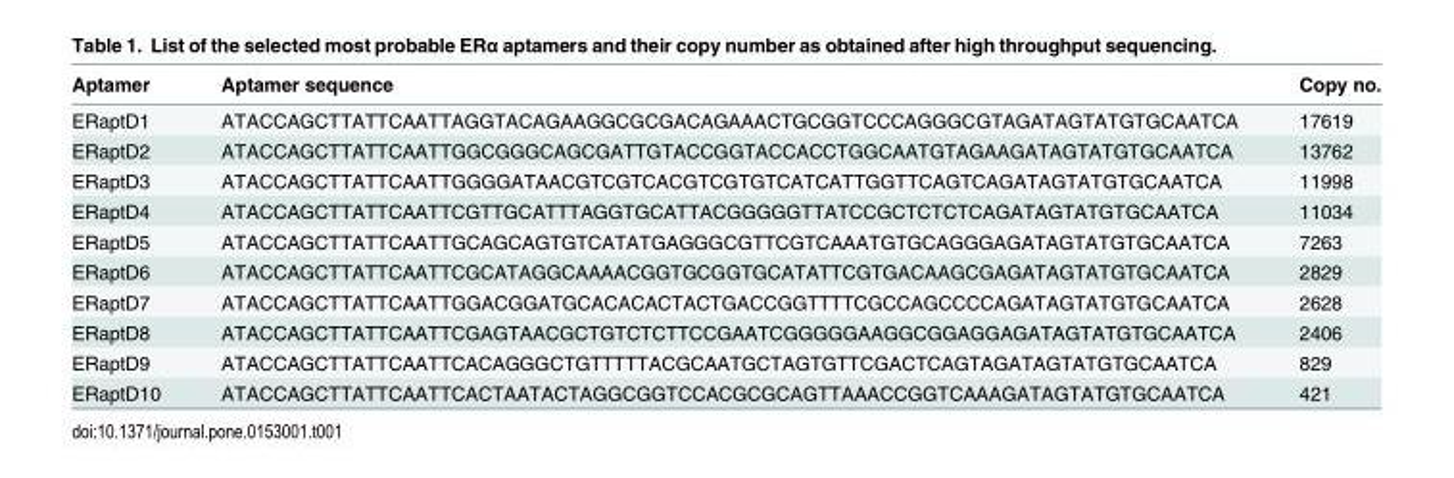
<table><thead><tr><td>Aptamer</td><td>Aptamer sequence</td><td>Copy no.</td></tr></thead><tbody><tr><td>ERaptD1</td><td>ATACCAGCTTATTCAATTAGGTACAGAAGGCGCGACAGAAACTGCGGTCCCAGGGCGTAGATAGTATGTGCAATCA</td><td>17619</td></tr><tr><td>ERaptD2</td><td>ATACCAGCTTATTCAATTGGCGGGCAGCGATTGTACCGGTACCACCTGGCAATGTAGAAGATAGTATGTGCAATCA</td><td>13762</td></tr><tr><td>ERaptD3</td><td>ATACCAGCTTATTCAATTGGGGATAACGTCGTCACGTCGTGTCATCATTGGTTCAGTCAGATAGTATGTGCAATCA</td><td>11998</td></tr><tr><td>ERaptD4</td><td>ATACCAGCTTATTCAATTCGTTGCATTTAGGTGCATTACGGGGGTTATCCGCTCTCTCAGATAGTATGTGCAATCA</td><td>11034</td></tr><tr><td>ERaptD5</td><td>ATACCAGCTTATTCAATTGCAGCAGTGTCATATGAGGGCGTTCGTCAAATGTGCAGGGAGATAGTATGTGCAATCA</td><td>7263</td></tr><tr><td>ERaptD6</td><td>ATACCAGCTTATTCAATTCGCATAGGCAAAACGGTGCGGTGCATATTCGTGACAAGCGAGATAGTATGTGCAATCA</td><td>2829</td></tr><tr><td>ERaptD7</td><td>ATACCAGCTTATTCAATTGGACGGATGCACACACTACTGACCGGTTTTCGCCAGCCCCAGATAGTATGTGCAATCA</td><td>2628</td></tr><tr><td>ERaptD8</td><td>ATACCAGCTTATTCAATTCGAGTAACGCTGTCTCTTCCGAATCGGGGGAAGGCGGAGGAGATAGTATGTGCAATCA</td><td>2406</td></tr><tr><td>ERaptD9</td><td>ATACCAGCTTATTCAATTCACAGGGCTGTTTTTACGCAATGCTAGTGTTCGACTCAGTAGATAGTATGTGCAATCA</td><td>829</td></tr><tr><td>ERaptD10</td><td>ATACCAGCTTATTCAATTCACTAATACTAGGCGGTCCACGCGCAGTTAAACCGGTCAAAGATAGTATGTGCAATCA</td><td>421</td></tr></tbody></table>